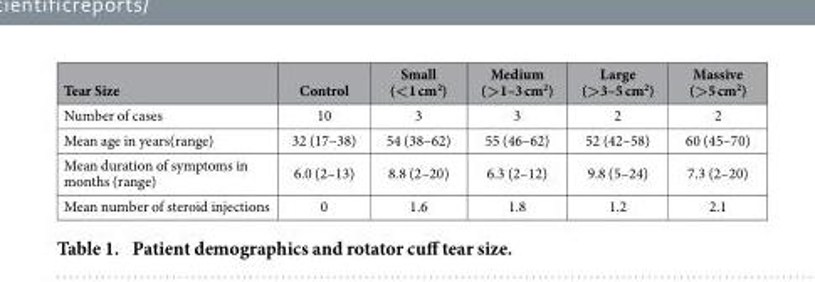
<table><thead><tr><td>Tear Size</td><td>Control</td><td>Small (&lt;1 cm<sup>2</sup>)</td><td>Medium (&gt;1–3 cm<sup>2</sup>)</td><td>Large (&gt;3–5 cm<sup>2</sup>)</td><td>Massive (&gt;5 cm<sup>2</sup>)</td></tr></thead><tbody><tr><td>Number of cases</td><td>10</td><td>3</td><td>3</td><td>2</td><td>2</td></tr><tr><td>Mean age in years(range)</td><td>32 (17–38)</td><td>54 (38–62)</td><td>55 (46–62)</td><td>52 (42–58)</td><td>60 (45–70)</td></tr><tr><td>Mean duration of symptoms in months (range)</td><td>6.0 (2–13)</td><td>8.8 (2–20)</td><td>6.3 (2–12)</td><td>9.8 (5–24)</td><td>7.3 (2–20)</td></tr><tr><td>Mean number of steroid injections</td><td>0</td><td>1.6</td><td>1.8</td><td>1.2</td><td>2.1</td></tr></tbody></table>